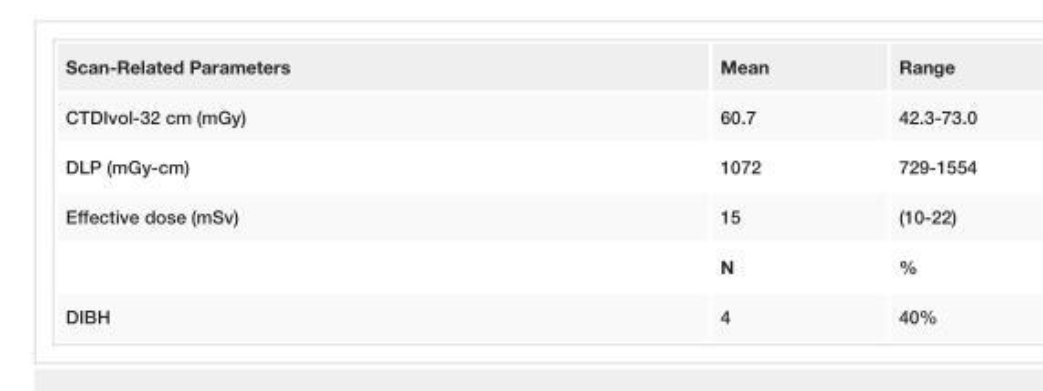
<table><tbody><tr><td>Scan-Related Parameters</td><td>Mean</td><td>Range</td></tr><tr><td>CTDIvol-32 cm (mGy)</td><td>60.7</td><td>42.3-73.0</td></tr><tr><td>DLP (mGy-cm)</td><td>1072</td><td>729-1554</td></tr><tr><td rowspan="2">Effective dose (mSv)</td><td>15</td><td>(10-22)</td></tr><tr><td>N</td><td>%</td></tr><tr><td>DIBH</td><td>4</td><td>40%</td></tr></tbody></table>